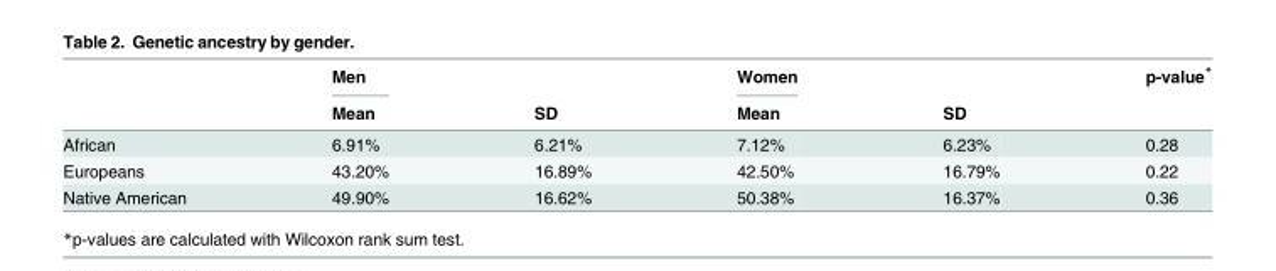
<table><thead><tr><td rowspan="2"></td><td rowspan="2">Men Mean</td><td rowspan="2">SD</td><td rowspan="2">Women Mean</td><td rowspan="2">SD</td><td rowspan="2">p-value*</td></tr><tr></tr></thead><tbody><tr><td>African</td><td>6.91%</td><td>6.21%</td><td>7.12%</td><td>6.23%</td><td>0.28</td></tr><tr><td>Europeans</td><td>43.20%</td><td>16.89%</td><td>42.50%</td><td>16.79%</td><td>0.22</td></tr><tr><td>Native American</td><td>49.90%</td><td>16.62%</td><td>50.38%</td><td>16.37%</td><td>0.36</td></tr></tbody></table>